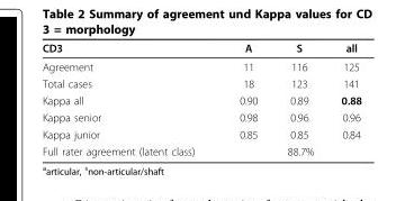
<table><thead><tr><td>CD3</td><td>A</td><td>S</td><td>all</td></tr></thead><tbody><tr><td>Agreement</td><td>11</td><td>116</td><td>125</td></tr><tr><td>Total cases</td><td>18</td><td>123</td><td>141</td></tr><tr><td>Kappa all</td><td>0.90</td><td>0.89</td><td>0.88</td></tr><tr><td>Kappa senior</td><td>0.98</td><td>0.96</td><td>0.96</td></tr><tr><td>Kappa junior</td><td>0.85</td><td>0.85</td><td>0.84</td></tr><tr><td>Full rater agreement (latent class)</td><td colspan="3">88.7%</td></tr></tbody></table>